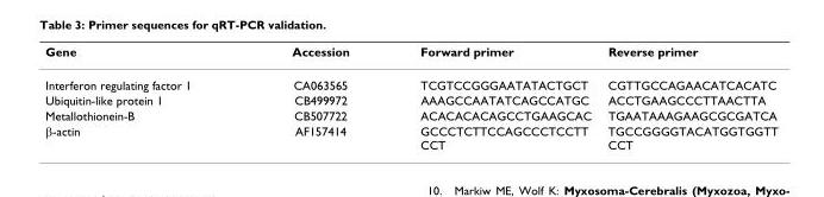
<table><thead><tr><td>Gene</td><td>Accession</td><td>Forward primer</td><td>Reverse primer</td></tr></thead><tbody><tr><td>Interferon regulating factor 1</td><td>CA063565</td><td>TCGTCCGGGAATATACTGCT</td><td>CGTTGCCAGAACATCACATC</td></tr><tr><td>Ubiquitin-like protein 1</td><td>CB499972</td><td>AAAGCCAATATCAGCCATGC</td><td>ACCTGAAGCCCTTAACTTA</td></tr><tr><td>Metallothionein-B</td><td>CB507722</td><td>ACACACACAGCCTGAAGCAC</td><td>TGAATAAAGAAGCGCGATCA</td></tr><tr><td>β-actin</td><td>AF157414</td><td>GCCCTCTTCCAGCCCTCCTT CCT</td><td>TGCCGGGGTACATGGTGGTT CCT</td></tr></tbody></table>